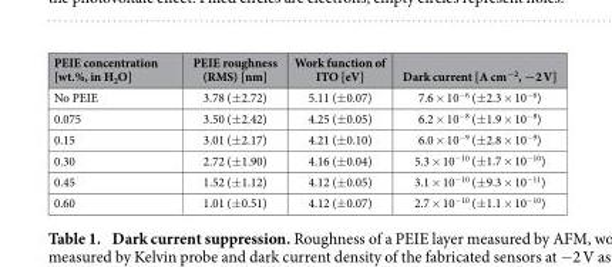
<table><thead><tr><td>PEIE concentration [wt.%, in H<sub>2</sub>O]</td><td>PEIE roughness (RMS) [nm]</td><td>Work function of ITO [eV]</td><td>Dark current [A cm<sup>−2</sup>, −2 V]</td></tr></thead><tbody><tr><td>No PEIE</td><td>3.78 (± 2.72)</td><td>5.11 (± 0.07)</td><td>7.6 × 10<sup>−6</sup> (± 2.3 × 10<sup>−6</sup>)</td></tr><tr><td>0.075</td><td>3.50 (± 2.42)</td><td>4.25 (± 0.05)</td><td>6.2 × 10<sup>−8</sup> (± 1.9 × 10<sup>−8</sup>)</td></tr><tr><td>0.15</td><td>3.01 (± 2.17)</td><td>4.21 (± 0.10)</td><td>6.0 × 10<sup>−9</sup> (± 2.8 × 10<sup>−9</sup>)</td></tr><tr><td>0.30</td><td>2.72 (± 1.90)</td><td>4.16 (± 0.04)</td><td>5.3 × 10<sup>−10</sup> (± 1.7 × 10<sup>−10</sup>)</td></tr><tr><td>0.45</td><td>1.52 (± 1.12)</td><td>4.12 (± 0.05)</td><td>3.1 × 10<sup>−10</sup> (± 9.3 × 10<sup>−11</sup>)</td></tr><tr><td>0.60</td><td>1.01 (± 0.51)</td><td>4.12 (± 0.07)</td><td>2.7 × 10<sup>−10</sup> (± 1.1 × 10<sup>−10</sup>)</td></tr></tbody></table>